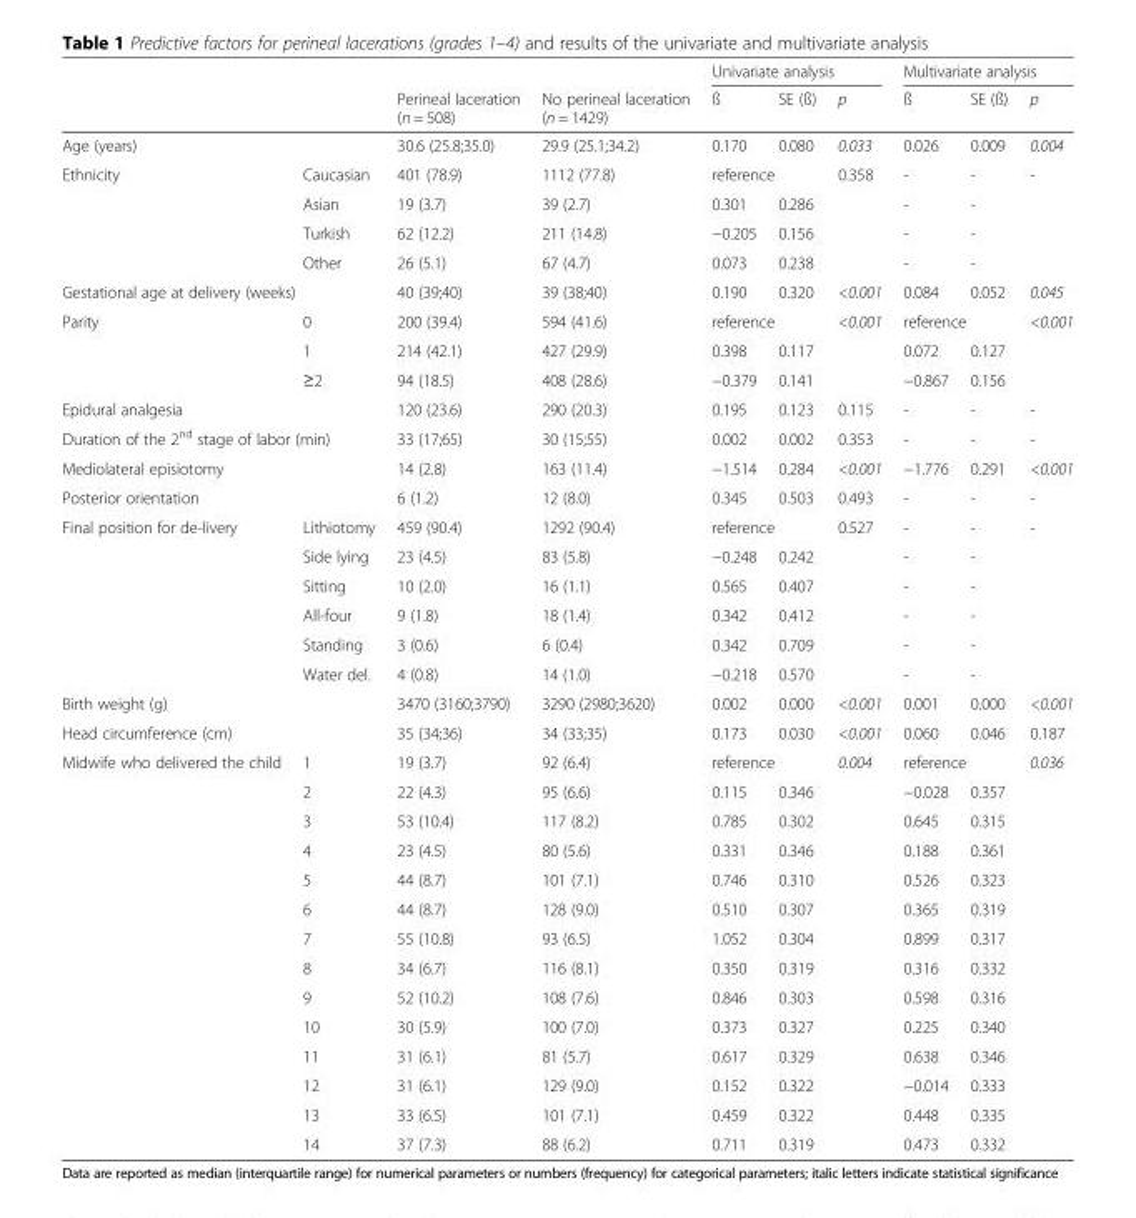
<table><thead><tr><td rowspan="2"></td><td rowspan="2"></td><td rowspan="2">Perineal laceration (n = 508)</td><td rowspan="2">No perineal laceration (n = 1429)</td><td colspan="3">Univariate analysis</td><td colspan="3">Multivariate analysis</td></tr><tr><td>ß</td><td>SE (ß)</td><td>p</td><td>ß</td><td>SE (ß)</td><td>p</td></tr></thead><tbody><tr><td colspan="2">Age (years)</td><td>30.6 (25.8;35.0)</td><td>29.9 (25.1;34.2)</td><td>0.170</td><td>0.080</td><td>0.033</td><td>0.026</td><td>0.009</td><td>0.004</td></tr><tr><td rowspan="4">Ethnicity</td><td>Caucasian</td><td>401 (78.9)</td><td>1112 (77.8)</td><td colspan="2">reference</td><td rowspan="4">0.358</td><td>-</td><td>-</td><td rowspan="4">-</td></tr><tr><td>Asian</td><td>19 (3.7)</td><td>39 (2.7)</td><td>0.301</td><td>0.286</td><td>-</td><td>-</td></tr><tr><td>Turkish</td><td>62 (12.2)</td><td>211 (14.8)</td><td>−0.205</td><td>0.156</td><td>-</td><td>-</td></tr><tr><td>Other</td><td>26 (5.1)</td><td>67 (4.7)</td><td>0.073</td><td>0.238</td><td>-</td><td>-</td></tr><tr><td colspan="2">Gestational age at delivery (weeks)</td><td>40 (39;40)</td><td>39 (38;40)</td><td>0.190</td><td>0.320</td><td>&lt;0.001</td><td>0.084</td><td>0.052</td><td>0.045</td></tr><tr><td rowspan="3">Parity</td><td>0</td><td>200 (39.4)</td><td>594 (41.6)</td><td colspan="2">reference</td><td rowspan="3">&lt;0.001</td><td colspan="2">reference</td><td rowspan="3">&lt;0.001</td></tr><tr><td>1</td><td>214 (42.1)</td><td>427 (29.9)</td><td>0.398</td><td>0.117</td><td>0.072</td><td>0.127</td></tr><tr><td>≥2</td><td>94 (18.5)</td><td>408 (28.6)</td><td>−0.379</td><td>0.141</td><td>−0.867</td><td>0.156</td></tr><tr><td colspan="2">Epidural analgesia</td><td>120 (23.6)</td><td>290 (20.3)</td><td>0.195</td><td>0.123</td><td>0.115</td><td>-</td><td>-</td><td>-</td></tr><tr><td colspan="2">Duration of the 2<sup>nd</sup> stage of labor (min)</td><td>33 (17;65)</td><td>30 (15;55)</td><td>0.002</td><td>0.002</td><td>0.353</td><td>-</td><td>-</td><td>-</td></tr><tr><td colspan="2">Mediolateral episiotomy</td><td>14 (2.8)</td><td>163 (11.4)</td><td>−1.514</td><td>0.284</td><td>&lt;0.001</td><td>−1.776</td><td>0.291</td><td>&lt;0.001</td></tr><tr><td colspan="2">Posterior orientation</td><td>6 (1.2)</td><td>12 (8.0)</td><td>0.345</td><td>0.503</td><td>0.493</td><td>-</td><td>-</td><td>-</td></tr><tr><td rowspan="6">Final position for de-livery</td><td>Lithiotomy</td><td>459 (90.4)</td><td>1292 (90.4)</td><td colspan="2">reference</td><td rowspan="6">0.527</td><td>-</td><td>-</td><td rowspan="6">-</td></tr><tr><td>Side lying</td><td>23 (4.5)</td><td>83 (5.8)</td><td>−0.248</td><td>0.242</td><td>-</td><td>-</td></tr><tr><td>Sitting</td><td>10 (2.0)</td><td>16 (1.1)</td><td>0.565</td><td>0.407</td><td>-</td><td>-</td></tr><tr><td>All-four</td><td>9 (1.8)</td><td>18 (1.4)</td><td>0.342</td><td>0.412</td><td>-</td><td>-</td></tr><tr><td>Standing</td><td>3 (0.6)</td><td>6 (0.4)</td><td>0.342</td><td>0.709</td><td>-</td><td>-</td></tr><tr><td>Water del.</td><td>4 (0.8)</td><td>14 (1.0)</td><td>−0.218</td><td>0.570</td><td>-</td><td>-</td></tr><tr><td colspan="2">Birth weight (g)</td><td>3470 (3160;3790)</td><td>3290 (2980;3620)</td><td>0.002</td><td>0.000</td><td>&lt;0.001</td><td>0.001</td><td>0.000</td><td>&lt;0.001</td></tr><tr><td colspan="2">Head circumference (cm)</td><td>35 (34;36)</td><td>34 (33;35)</td><td>0.173</td><td>0.030</td><td>&lt;0.001</td><td>0.060</td><td>0.046</td><td>0.187</td></tr><tr><td rowspan="14">Midwife who delivered the child</td><td>1</td><td>19 (3.7)</td><td>92 (6.4)</td><td colspan="2">reference</td><td rowspan="14">0.004</td><td colspan="2">reference</td><td rowspan="14">0.036</td></tr><tr><td>2</td><td>22 (4.3)</td><td>95 (6.6)</td><td>0.115</td><td>0.346</td><td>−0.028</td><td>0.357</td></tr><tr><td>3</td><td>53 (10.4)</td><td>117 (8.2)</td><td>0.785</td><td>0.302</td><td>0.645</td><td>0.315</td></tr><tr><td>4</td><td>23 (4.5)</td><td>80 (5.6)</td><td>0.331</td><td>0.346</td><td>0.188</td><td>0.361</td></tr><tr><td>5</td><td>44 (8.7)</td><td>101 (7.1)</td><td>0.746</td><td>0.310</td><td>0.526</td><td>0.323</td></tr><tr><td>6</td><td>44 (8.7)</td><td>128 (9.0)</td><td>0.510</td><td>0.307</td><td>0.365</td><td>0.319</td></tr><tr><td>7</td><td>55 (10.8)</td><td>93 (6.5)</td><td>1.052</td><td>0.304</td><td>0.899</td><td>0.317</td></tr><tr><td>8</td><td>34 (6.7)</td><td>116 (8.1)</td><td>0.350</td><td>0.319</td><td>0.316</td><td>0.332</td></tr><tr><td>9</td><td>52 (10.2)</td><td>108 (7.6)</td><td>0.846</td><td>0.303</td><td>0.598</td><td>0.316</td></tr><tr><td>10</td><td>30 (5.9)</td><td>100 (7.0)</td><td>0.373</td><td>0.327</td><td>0.225</td><td>0.340</td></tr><tr><td>11</td><td>31 (6.1)</td><td>81 (5.7)</td><td>0.617</td><td>0.329</td><td>0.638</td><td>0.346</td></tr><tr><td>12</td><td>31 (6.1)</td><td>129 (9.0)</td><td>0.152</td><td>0.322</td><td>−0.014</td><td>0.333</td></tr><tr><td>13</td><td>33 (6.5)</td><td>101 (7.1)</td><td>0.459</td><td>0.322</td><td>0.448</td><td>0.335</td></tr><tr><td>14</td><td>37 (7.3)</td><td>88 (6.2)</td><td>0.711</td><td>0.319</td><td>0.473</td><td>0.332</td></tr></tbody></table>